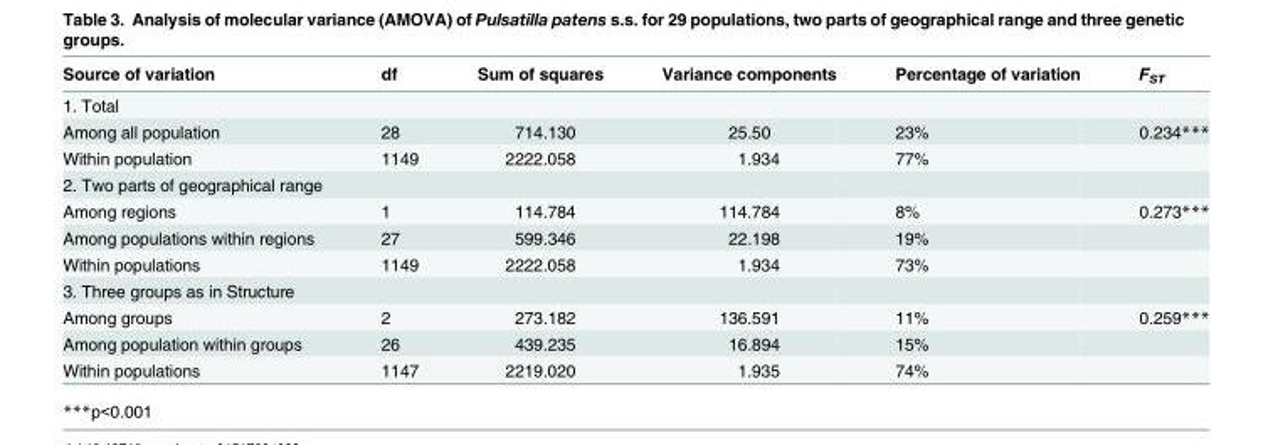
<table><thead><tr><td>Source of variation</td><td>df</td><td>Sum of squares</td><td>Variance components</td><td>Percentage of variation</td><td>F<sub>ST</sub></td></tr></thead><tbody><tr><td colspan="6">1. Total</td></tr><tr><td>Among all population</td><td>28</td><td>714.130</td><td>25.50</td><td>23%</td><td>0.234***</td></tr><tr><td>Within population</td><td>1149</td><td>2222.058</td><td>1.934</td><td>77%</td><td></td></tr><tr><td colspan="6">2. Two parts of geographical range</td></tr><tr><td>Among regions</td><td>1</td><td>114.784</td><td>114.784</td><td>8%</td><td>0.273***</td></tr><tr><td>Among populations within regions</td><td>27</td><td>599.346</td><td>22.198</td><td>19%</td><td></td></tr><tr><td>Within populations</td><td>1149</td><td>2222.058</td><td>1.934</td><td>73%</td><td></td></tr><tr><td colspan="6">3. Three groups as in Structure</td></tr><tr><td>Among groups</td><td>2</td><td>273.182</td><td>136.591</td><td>11%</td><td>0.259***</td></tr><tr><td>Among population within groups</td><td>26</td><td>439.235</td><td>16.894</td><td>15%</td><td></td></tr><tr><td>Within populations</td><td>1147</td><td>2219.020</td><td>1.935</td><td>74%</td><td></td></tr></tbody></table>